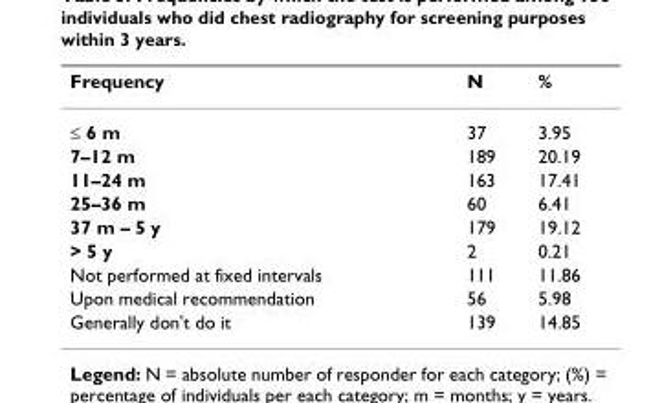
<table><thead><tr><td>Frequency</td><td>N</td><td>%</td></tr></thead><tbody><tr><td>≤ 6 m</td><td>37</td><td>3.95</td></tr><tr><td>7–12 m</td><td>189</td><td>20.19</td></tr><tr><td>11–24 m</td><td>163</td><td>17.41</td></tr><tr><td>25–36 m</td><td>60</td><td>6.41</td></tr><tr><td>37 m – 5 y</td><td>179</td><td>19.12</td></tr><tr><td>&gt; 5 y</td><td>2</td><td>0.21</td></tr><tr><td>Not performed at fixed intervals</td><td>111</td><td>11.86</td></tr><tr><td>Upon medical recommendation</td><td>56</td><td>5.98</td></tr><tr><td>Generally don&#x27;t do it</td><td>139</td><td>14.85</td></tr></tbody></table>